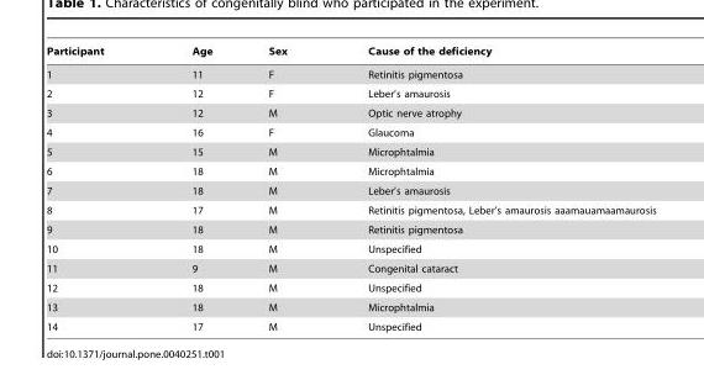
<table><thead><tr><td>Participant</td><td>Age</td><td>Sex</td><td>Cause of the deficiency</td></tr></thead><tbody><tr><td>1</td><td>11</td><td>F</td><td>Retinitis pigmentosa</td></tr><tr><td>2</td><td>12</td><td>F</td><td>Leber’s amaurosis</td></tr><tr><td>3</td><td>12</td><td>M</td><td>Optic nerve atrophy</td></tr><tr><td>4</td><td>16</td><td>F</td><td>Glaucoma</td></tr><tr><td>5</td><td>15</td><td>M</td><td>Microphtalmia</td></tr><tr><td>6</td><td>18</td><td>M</td><td>Microphtalmia</td></tr><tr><td>7</td><td>18</td><td>M</td><td>Leber’s amaurosis</td></tr><tr><td>8</td><td>17</td><td>M</td><td>Retinitis pigmentosa, Leber’s amaurosis aaamauamaamaurosis</td></tr><tr><td>9</td><td>18</td><td>M</td><td>Retinitis pigmentosa</td></tr><tr><td>10</td><td>18</td><td>M</td><td>Unspecified</td></tr><tr><td>11</td><td>9</td><td>M</td><td>Congenital cataract</td></tr><tr><td>12</td><td>18</td><td>M</td><td>Unspecified</td></tr><tr><td>13</td><td>18</td><td>M</td><td>Microphtalmia</td></tr><tr><td>14</td><td>17</td><td>M</td><td>Unspecified</td></tr></tbody></table>